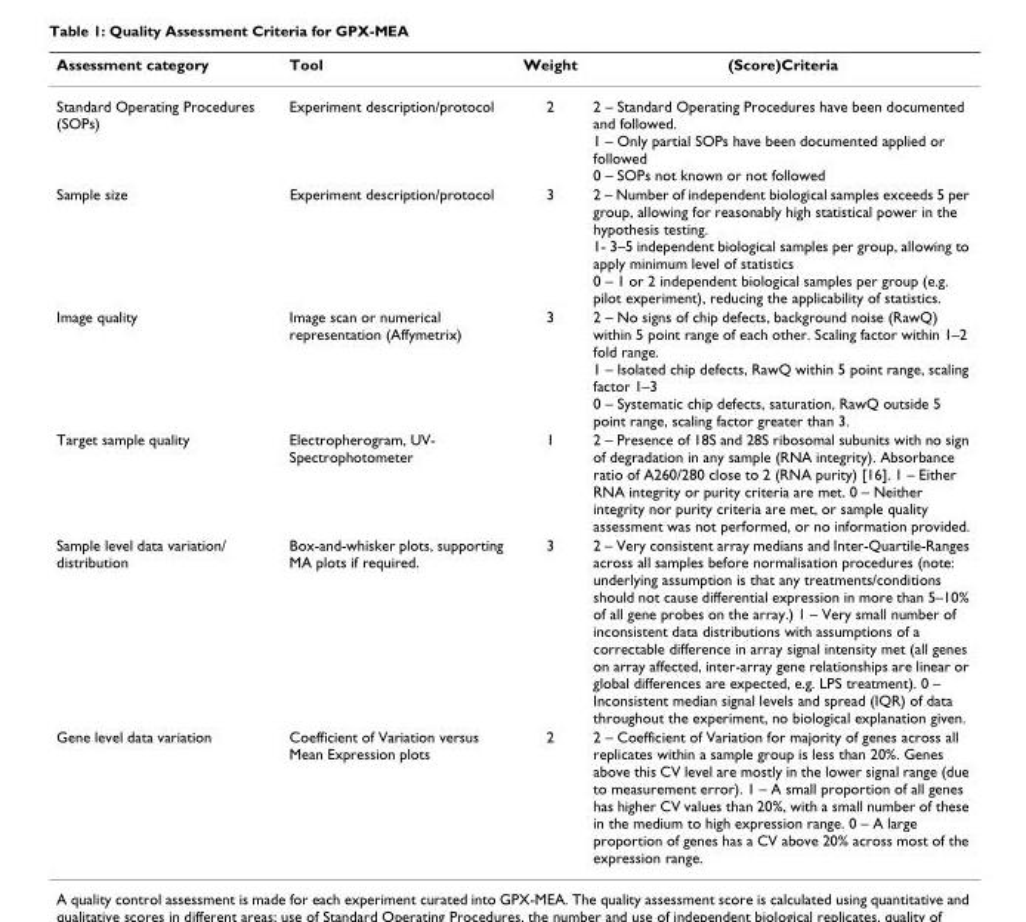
<table><thead><tr><td>Assessment category</td><td>Tool</td><td>Weight</td><td>(Score)Criteria</td></tr></thead><tbody><tr><td>Standard Operating Procedures (SOPs)</td><td>Experiment description/protocol</td><td>2</td><td>2 – Standard Operating Procedures have been documented and followed. 1 – Only partial SOPs have been documented applied or followed 0 – SOPs not known or not followed</td></tr><tr><td>Sample size</td><td>Experiment description/protocol</td><td>3</td><td>2 – Number of independent biological samples exceeds 5 per group, allowing for reasonably high statistical power in the hypothesis testing. 1- 3–5 independent biological samples per group, allowing to apply minimum level of statistics 0 – 1 or 2 independent biological samples per group (e.g. pilot experiment), reducing the applicability of statistics.</td></tr><tr><td>Image quality</td><td>Image scan or numerical representation (Affymetrix)</td><td>3</td><td>2 – No signs of chip defects, background noise (RawQ) within 5 point range of each other. Scaling factor within 1–2 fold range. 1 – Isolated chip defects, RawQ within 5 point range, scaling factor 1–3 0 – Systematic chip defects, saturation, RawQ outside 5 point range, scaling factor greater than 3.</td></tr><tr><td>Target sample quality</td><td>Electropherogram, UV- Spectrophotometer</td><td>1</td><td>2 – Presence of 18S and 28S ribosomal subunits with no sign of degradation in any sample (RNA integrity). Absorbance ratio of A260/280 close to 2 (RNA purity) [16]. 1 – Either RNA integrity or purity criteria are met. 0 – Neither integrity nor purity criteria are met, or sample quality assessment was not performed, or no information provided.</td></tr><tr><td>Sample level data variation/ distribution</td><td>Box-and-whisker plots, supporting MA plots if required.</td><td>3</td><td>2 – Very consistent array medians and Inter-Quartile-Ranges across all samples before normalisation procedures (note: underlying assumption is that any treatments/conditions should not cause differential expression in more than 5–10% of all gene probes on the array.) 1 – Very small number of inconsistent data distributions with assumptions of a correctable difference in array signal intensity met (all genes on array affected, inter-array gene relationships are linear or global differences are expected, e.g. LPS treatment). 0 – Inconsistent median signal levels and spread (IQR) of data throughout the experiment, no biological explanation given.</td></tr><tr><td>Gene level data variation</td><td>Coefficient of Variation versus Mean Expression plots</td><td>2</td><td>2 – Coefficient of Variation for majority of genes across all replicates within a sample group is less than 20%. Genes above this CV level are mostly in the lower signal range (due to measurement error). 1 – A small proportion of all genes has higher CV values than 20%, with a small number of these in the medium to high expression range. 0 – A large proportion of genes has a CV above 20% across most of the expression range.</td></tr></tbody></table>